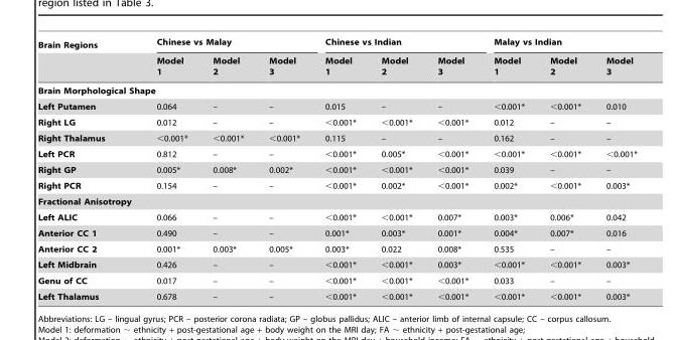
<table><thead><tr><td rowspan="2">Brain Regions</td><td colspan="3">Chinese vs Malay</td><td colspan="3">Chinese vs Indian</td><td colspan="3">Malay vs Indian</td></tr><tr><td>Model 1</td><td>Model 2</td><td>Model 3</td><td>Model 1</td><td>Model 2</td><td>Model 3</td><td>Model 1</td><td>Model 2</td><td>Model 3</td></tr></thead><tbody><tr><td colspan="10">Brain Morphological Shape</td></tr><tr><td>Left Putamen</td><td>0.064</td><td>–</td><td>–</td><td>0.015</td><td>–</td><td>–</td><td>&lt;0.001*</td><td>&lt;0.001*</td><td>0.010</td></tr><tr><td>Right LG</td><td>0.012</td><td>–</td><td>–</td><td>&lt;0.001*</td><td>&lt;0.001*</td><td>&lt;0.001*</td><td>0.012</td><td>–</td><td>–</td></tr><tr><td>Right Thalamus</td><td>&lt;0.001*</td><td>&lt;0.001*</td><td>&lt;0.001*</td><td>0.115</td><td>–</td><td>–</td><td>0.162</td><td>–</td><td>–</td></tr><tr><td>Left PCR</td><td>0.812</td><td>–</td><td>–</td><td>&lt;0.001*</td><td>0.005*</td><td>&lt;0.001*</td><td>&lt;0.001*</td><td>&lt;0.001*</td><td>&lt;0.001*</td></tr><tr><td>Right GP</td><td>0.005*</td><td>0.008*</td><td>0.002*</td><td>&lt;0.001*</td><td>&lt;0.001*</td><td>&lt;0.001*</td><td>0.039</td><td>–</td><td>–</td></tr><tr><td>Right PCR</td><td>0.154</td><td>–</td><td>–</td><td>&lt;0.001*</td><td>0.002*</td><td>&lt;0.001*</td><td>0.002*</td><td>&lt;0.001*</td><td>0.003*</td></tr><tr><td colspan="10">Fractional Anisotropy</td></tr><tr><td>Left ALIC</td><td>0.066</td><td>–</td><td>–</td><td>&lt;0.001*</td><td>&lt;0.001*</td><td>0.007*</td><td>0.003*</td><td>0.006*</td><td>0.042</td></tr><tr><td>Anterior CC 1</td><td>0.490</td><td>–</td><td>–</td><td>0.001*</td><td>0.003*</td><td>0.001*</td><td>0.004*</td><td>0.007*</td><td>0.016</td></tr><tr><td>Anterior CC 2</td><td>0.001*</td><td>0.003*</td><td>0.005*</td><td>0.003*</td><td>0.022</td><td>0.008*</td><td>0.535</td><td>–</td><td>–</td></tr><tr><td>Left Midbrain</td><td>0.426</td><td>–</td><td>–</td><td>&lt;0.001*</td><td>&lt;0.001*</td><td>0.003*</td><td>&lt;0.001*</td><td>&lt;0.001*</td><td>0.003*</td></tr><tr><td>Genu of CC</td><td>0.017</td><td>–</td><td>–</td><td>&lt;0.001*</td><td>&lt;0.001*</td><td>&lt;0.001*</td><td>0.033</td><td>–</td><td>–</td></tr><tr><td>Left Thalamus</td><td>0.678</td><td>–</td><td>–</td><td>&lt;0.001*</td><td>&lt;0.001*</td><td>&lt;0.001*</td><td>&lt;0.001*</td><td>&lt;0.001*</td><td>0.003*</td></tr></tbody></table>